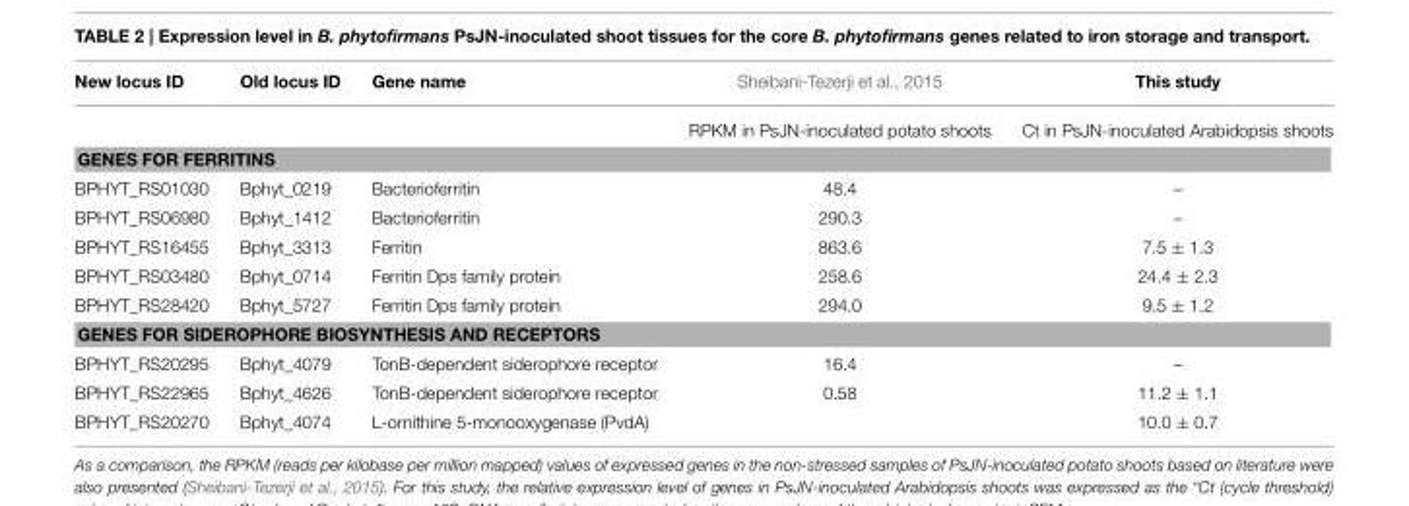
<table><thead><tr><td>New locus ID</td><td>Old locus ID</td><td>Gene name</td><td>Sheibani-Tezerji et al., 2015</td><td>This study</td></tr></thead><tbody><tr><td></td><td></td><td></td><td>RPKM in PsJN-inoculated potato shoots</td><td>Ct in PsJN-inoculated Arabidopsis shoots</td></tr><tr><td colspan="5">GENES FOR FERRITINS</td></tr><tr><td>BPHYT_RS01030</td><td>Bphyt_0219</td><td>Bacterioferritin</td><td>48.4</td><td>–</td></tr><tr><td>BPHYT_RS06980</td><td>Bphyt_1412</td><td>Bacterioferritin</td><td>290.3</td><td>–</td></tr><tr><td>BPHYT_RS16455</td><td>Bphyt_3313</td><td>Ferritin</td><td>863.6</td><td>7.5 ± 1.3</td></tr><tr><td>BPHYT_RS03480</td><td>Bphyt_0714</td><td>Ferritin Dps family protein</td><td>258.6</td><td>24.4 ± 2.3</td></tr><tr><td>BPHYT_RS28420</td><td>Bphyt_5727</td><td>Ferritin Dps family protein</td><td>294.0</td><td>9.5 ± 1.2</td></tr><tr><td colspan="5">GENES FOR SIDEROPHORE BIOSYNTHESIS AND RECEPTORS</td></tr><tr><td>BPHYT_RS20295</td><td>Bphyt_4079</td><td>TonB-dependent siderophore receptor</td><td>16.4</td><td>–</td></tr><tr><td>BPHYT_RS22965</td><td>Bphyt_4626</td><td>TonB-dependent siderophore receptor</td><td>0.58</td><td>11.2 ± 1.1</td></tr><tr><td>BPHYT_RS20270</td><td>Bphyt_4074</td><td>L-ornithine 5-monooxygenase (PvdA)</td><td></td><td>10.0 ± 0.7</td></tr></tbody></table>